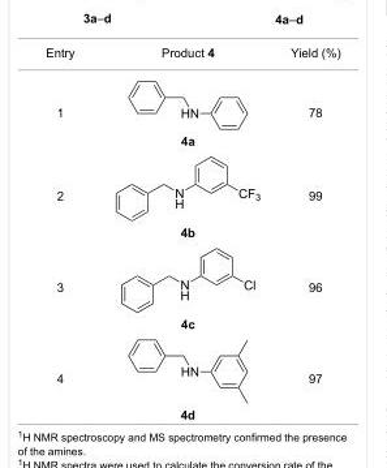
<table><tbody><tr><td>Entry</td><td>Product 4</td><td>Yield (%)</td></tr><tr><td>1</td><td>4a</td><td>78</td></tr><tr><td>2</td><td>4b</td><td>99</td></tr><tr><td>3</td><td>4c</td><td>96</td></tr><tr><td>4</td><td>4d</td><td>97</td></tr></tbody></table>